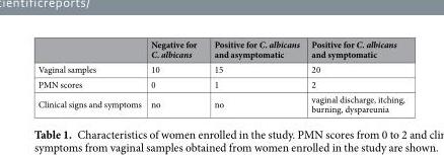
<table><thead><tr><td></td><td>Negative for C. albicans</td><td>Positive for C. albicans and asymptomatic</td><td>Positive for C. albicans and symptomatic</td></tr></thead><tbody><tr><td>Vaginal samples</td><td>10</td><td>15</td><td>20</td></tr><tr><td>PMN scores</td><td>0</td><td>1</td><td>2</td></tr><tr><td>Clinical signs and symptoms</td><td>no</td><td>no</td><td>vaginal discharge, itching, burning, dyspareunia</td></tr></tbody></table>